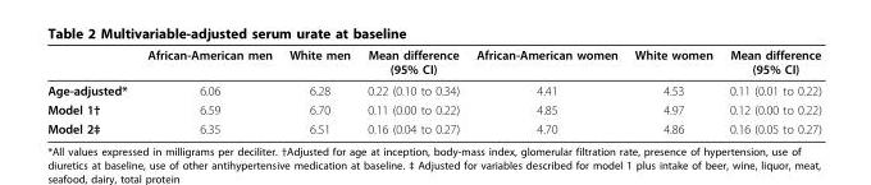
<table><thead><tr><td></td><td>African-American men</td><td>White men</td><td>Mean difference (95% CI)</td><td>African-American women</td><td>White women</td><td>Mean difference (95% CI)</td></tr></thead><tbody><tr><td>Age-adjusted*</td><td>6.06</td><td>6.28</td><td>0.22 (0.10 to 0.34)</td><td>4.41</td><td>4.53</td><td>0.11 (0.01 to 0.22)</td></tr><tr><td>Model 1†</td><td>6.59</td><td>6.70</td><td>0.11 (0.00 to 0.22)</td><td>4.85</td><td>4.97</td><td>0.12 (0.00 to 0.22)</td></tr><tr><td>Model 2‡</td><td>6.35</td><td>6.51</td><td>0.16 (0.04 to 0.27)</td><td>4.70</td><td>4.86</td><td>0.16 (0.05 to 0.27)</td></tr></tbody></table>